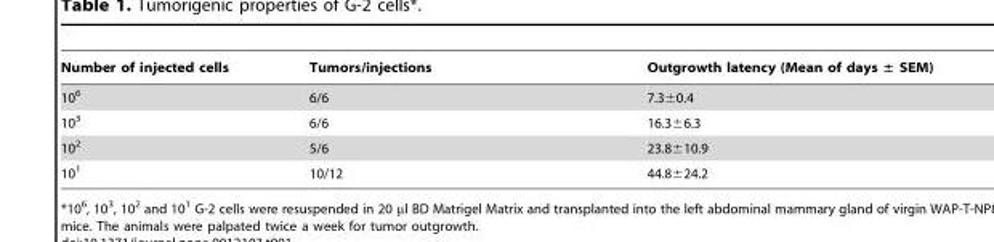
<table><thead><tr><td>Number of injected cells</td><td>Tumors/injections</td><td>Outgrowth latency (Mean of days ± SEM)</td></tr></thead><tbody><tr><td>10<sup>6</sup></td><td>6/6</td><td>7.3±0.4</td></tr><tr><td>10<sup>3</sup></td><td>6/6</td><td>16.3±6.3</td></tr><tr><td>10<sup>2</sup></td><td>5/6</td><td>23.8±10.9</td></tr><tr><td>10<sup>1</sup></td><td>10/12</td><td>44.8±24.2</td></tr></tbody></table>